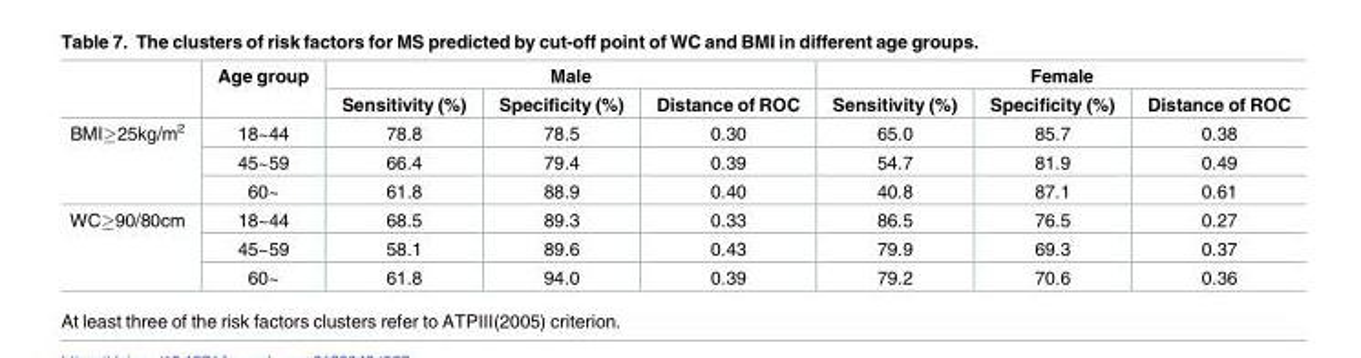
<table><thead><tr><td rowspan="2"></td><td rowspan="2">Age group</td><td colspan="3">Male</td><td colspan="3">Female</td></tr><tr><td>Sensitivity (%)</td><td>Specificity (%)</td><td>Distance of ROC</td><td>Sensitivity (%)</td><td>Specificity (%)</td><td>Distance of ROC</td></tr></thead><tbody><tr><td rowspan="3">BMI≥25kg/m<sup>2</sup></td><td>18~44</td><td>78.8</td><td>78.5</td><td>0.30</td><td>65.0</td><td>85.7</td><td>0.38</td></tr><tr><td>45~59</td><td>66.4</td><td>79.4</td><td>0.39</td><td>54.7</td><td>81.9</td><td>0.49</td></tr><tr><td>60~</td><td>61.8</td><td>88.9</td><td>0.40</td><td>40.8</td><td>87.1</td><td>0.61</td></tr><tr><td rowspan="3">WC≥90/80cm</td><td>18~44</td><td>68.5</td><td>89.3</td><td>0.33</td><td>86.5</td><td>76.5</td><td>0.27</td></tr><tr><td>45~59</td><td>58.1</td><td>89.6</td><td>0.43</td><td>79.9</td><td>69.3</td><td>0.37</td></tr><tr><td>60~</td><td>61.8</td><td>94.0</td><td>0.39</td><td>79.2</td><td>70.6</td><td>0.36</td></tr></tbody></table>